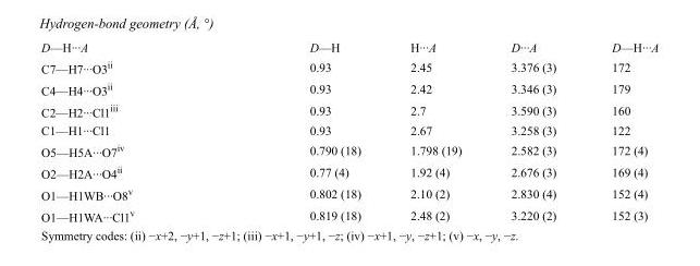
<table><tbody><tr><td>D—H···A</td><td>D—H</td><td>H···A</td><td>D···A</td><td>D—H···A</td></tr><tr><td>C7—H7···O3<sup>ii</sup></td><td>0.93</td><td>2.45</td><td>3.376 (3)</td><td>172</td></tr><tr><td>C4—H4···O3<sup>ii</sup></td><td>0.93</td><td>2.42</td><td>3.346 (3)</td><td>179</td></tr><tr><td>C2—H2···Cl1<sup>iii</sup></td><td>0.93</td><td>2.7</td><td>3.590 (3)</td><td>160</td></tr><tr><td>C1—H1···Cl1</td><td>0.93</td><td>2.67</td><td>3.258 (3)</td><td>122</td></tr><tr><td>O5—H5A···O7<sup>iv</sup></td><td>0.790 (18)</td><td>1.798 (19)</td><td>2.582 (3)</td><td>172 (4)</td></tr><tr><td>O2—H2A···O4<sup>ii</sup></td><td>0.77 (4)</td><td>1.92 (4)</td><td>2.676 (3)</td><td>169 (4)</td></tr><tr><td>O1—H1WB···O8<sup>v</sup></td><td>0.802 (18)</td><td>2.10 (2)</td><td>2.830 (4)</td><td>152 (4)</td></tr><tr><td>O1—H1WA···Cl1<sup>v</sup></td><td>0.819 (18)</td><td>2.48 (2)</td><td>3.220 (2)</td><td>152 (3)</td></tr></tbody></table>